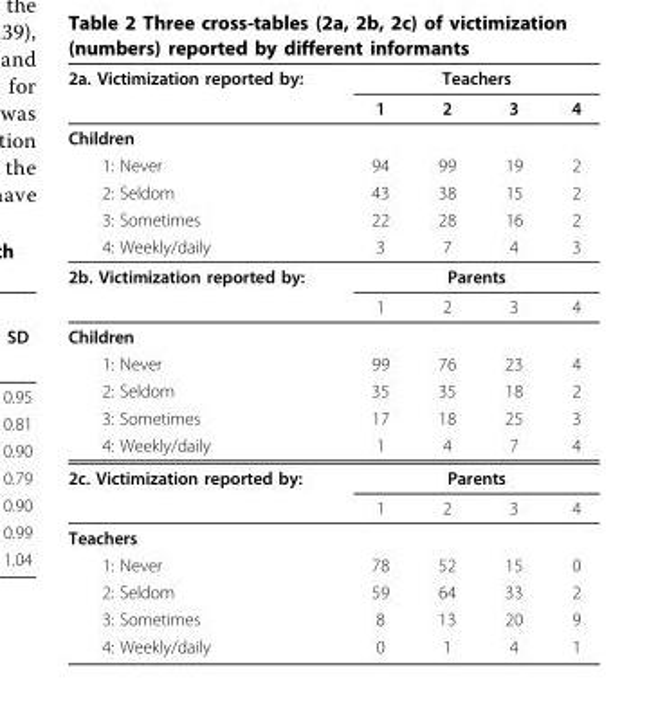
<table><thead><tr><td rowspan="2">2a. Victimization reported by:</td><td colspan="4">Teachers</td></tr><tr><td>1</td><td>2</td><td>3</td><td>4</td></tr></thead><tbody><tr><td colspan="5">Children</td></tr><tr><td>1: Never</td><td>94</td><td>99</td><td>19</td><td>2</td></tr><tr><td>2: Seldom</td><td>43</td><td>38</td><td>15</td><td>2</td></tr><tr><td>3: Sometimes</td><td>22</td><td>28</td><td>16</td><td>2</td></tr><tr><td>4: Weekly/daily</td><td>3</td><td>7</td><td>4</td><td>3</td></tr><tr><td rowspan="2">2b. Victimization reported by:</td><td colspan="4">Parents</td></tr><tr><td>1</td><td>2</td><td>3</td><td>4</td></tr><tr><td colspan="5">Children</td></tr><tr><td>1: Never</td><td>99</td><td>76</td><td>23</td><td>4</td></tr><tr><td>2: Seldom</td><td>35</td><td>35</td><td>18</td><td>2</td></tr><tr><td>3: Sometimes</td><td>17</td><td>18</td><td>25</td><td>3</td></tr><tr><td>4: Weekly/daily</td><td>1</td><td>4</td><td>7</td><td>4</td></tr><tr><td rowspan="2">2c. Victimization reported by:</td><td colspan="4">Parents</td></tr><tr><td>1</td><td>2</td><td>3</td><td>4</td></tr><tr><td colspan="5">Teachers</td></tr><tr><td>1: Never</td><td>78</td><td>52</td><td>15</td><td>0</td></tr><tr><td>2: Seldom</td><td>59</td><td>64</td><td>33</td><td>2</td></tr><tr><td>3: Sometimes</td><td>8</td><td>13</td><td>20</td><td>9</td></tr><tr><td>4: Weekly/daily</td><td>0</td><td>1</td><td>4</td><td>1</td></tr></tbody></table>